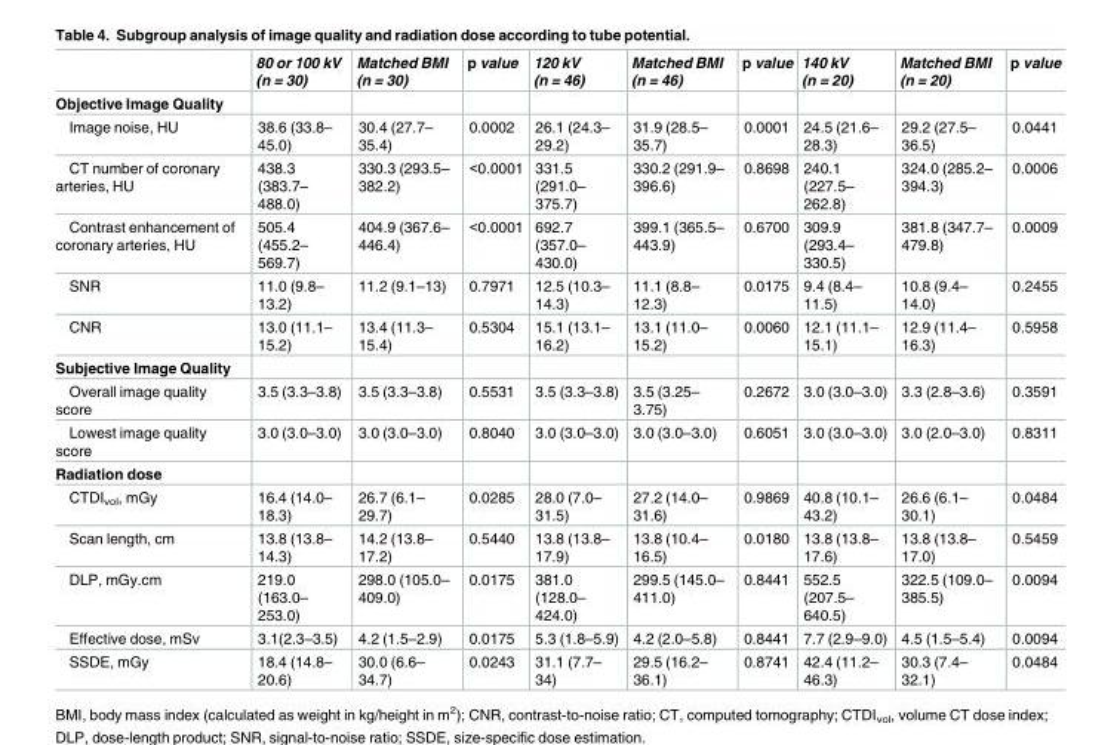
<table><thead><tr><td></td><td>80 or 100 kV (n = 30)</td><td>Matched BMI (n = 30)</td><td>p value</td><td>120 kV (n = 46)</td><td>Matched BMI (n = 46)</td><td>p value</td><td>140 kV (n = 20)</td><td>Matched BMI (n = 20)</td><td>p value</td></tr></thead><tbody><tr><td colspan="10">Objective Image Quality</td></tr><tr><td>Image noise, HU</td><td>38.6 (33.8– 45.0)</td><td>30.4 (27.7– 35.4)</td><td>0.0002</td><td>26.1 (24.3– 29.2)</td><td>31.9 (28.5– 35.7)</td><td>0.0001</td><td>24.5 (21.6– 28.3)</td><td>29.2 (27.5– 36.5)</td><td>0.0441</td></tr><tr><td>CT number of coronary arteries, HU</td><td>438.3 (383.7– 488.0)</td><td>330.3 (293.5– 382.2)</td><td>&lt;0.0001</td><td>331.5 (291.0– 375.7)</td><td>330.2 (291.9– 396.6)</td><td>0.8698</td><td>240.1 (227.5– 262.8)</td><td>324.0 (285.2– 394.3)</td><td>0.0006</td></tr><tr><td>Contrast enhancement of coronary arteries, HU</td><td>505.4 (455.2– 569.7)</td><td>404.9 (367.6– 446.4)</td><td>&lt;0.0001</td><td>692.7 (357.0– 430.0)</td><td>399.1 (365.5– 443.9)</td><td>0.6700</td><td>309.9 (293.4– 330.5)</td><td>381.8 (347.7– 479.8)</td><td>0.0009</td></tr><tr><td>SNR</td><td>11.0 (9.8– 13.2)</td><td>11.2 (9.1–13)</td><td>0.7971</td><td>12.5 (10.3– 14.3)</td><td>11.1 (8.8– 12.3)</td><td>0.0175</td><td>9.4 (8.4– 11.5)</td><td>10.8 (9.4– 14.0)</td><td>0.2455</td></tr><tr><td>CNR</td><td>13.0 (11.1– 15.2)</td><td>13.4 (11.3– 15.4)</td><td>0.5304</td><td>15.1 (13.1– 16.2)</td><td>13.1 (11.0– 15.2)</td><td>0.0060</td><td>12.1 (11.1– 15.1)</td><td>12.9 (11.4– 16.3)</td><td>0.5958</td></tr><tr><td colspan="10">Subjective Image Quality</td></tr><tr><td>Overall image quality score</td><td>3.5 (3.3–3.8)</td><td>3.5 (3.3–3.8)</td><td>0.5531</td><td>3.5 (3.3–3.8)</td><td>3.5 (3.25– 3.75)</td><td>0.2672</td><td>3.0 (3.0–3.0)</td><td>3.3 (2.8–3.6)</td><td>0.3591</td></tr><tr><td>Lowest image quality score</td><td>3.0 (3.0–3.0)</td><td>3.0 (3.0–3.0)</td><td>0.8040</td><td>3.0 (3.0–3.0)</td><td>3.0 (3.0–3.0)</td><td>0.6051</td><td>3.0 (3.0–3.0)</td><td>3.0 (2.0–3.0)</td><td>0.8311</td></tr><tr><td colspan="10">Radiation dose</td></tr><tr><td>CTDI<sub>vol</sub>, mGy</td><td>16.4 (14.0– 18.3)</td><td>26.7 (6.1– 29.7)</td><td>0.0285</td><td>28.0 (7.0– 31.5)</td><td>27.2 (14.0– 31.6)</td><td>0.9869</td><td>40.8 (10.1– 43.2)</td><td>26.6 (6.1– 30.1)</td><td>0.0484</td></tr><tr><td>Scan length, cm</td><td>13.8 (13.8– 14.3)</td><td>14.2 (13.8– 17.2)</td><td>0.5440</td><td>13.8 (13.8– 17.9)</td><td>13.8 (10.4– 16.5)</td><td>0.0180</td><td>13.8 (13.8– 17.6)</td><td>13.8 (13.8– 17.0)</td><td>0.5459</td></tr><tr><td>DLP, mGy.cm</td><td>219.0 (163.0– 253.0)</td><td>298.0 (105.0– 409.0)</td><td>0.0175</td><td>381.0 (128.0– 424.0)</td><td>299.5 (145.0– 411.0)</td><td>0.8441</td><td>552.5 (207.5– 640.5)</td><td>322.5 (109.0– 385.5)</td><td>0.0094</td></tr><tr><td>Effective dose, mSv</td><td>3.1(2.3–3.5)</td><td>4.2 (1.5–2.9)</td><td>0.0175</td><td>5.3 (1.8–5.9)</td><td>4.2 (2.0–5.8)</td><td>0.8441</td><td>7.7 (2.9–9.0)</td><td>4.5 (1.5–5.4)</td><td>0.0094</td></tr><tr><td>SSDE, mGy</td><td>18.4 (14.8– 20.6)</td><td>30.0 (6.6– 34.7)</td><td>0.0243</td><td>31.1 (7.7– 34)</td><td>29.5 (16.2– 36.1)</td><td>0.8741</td><td>42.4 (11.2– 46.3)</td><td>30.3 (7.4– 32.1)</td><td>0.0484</td></tr></tbody></table>